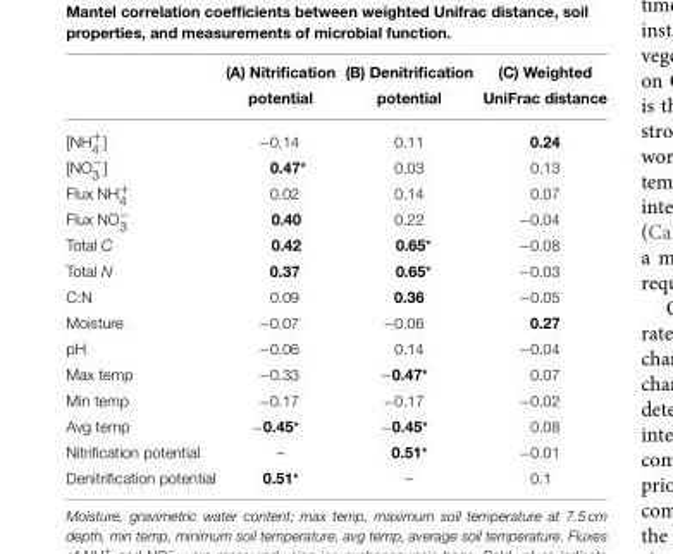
<table><thead><tr><td></td><td>(A) Nitrification potential</td><td>(B) Denitrification potential</td><td>(C) Weighted UniFrac distance</td></tr></thead><tbody><tr><td>[NH<sup>+</sup> <sub>4</sub> ]</td><td>−0.14</td><td>0.11</td><td>0.24</td></tr><tr><td>[NO<sup>−</sup> <sub>3</sub> ]</td><td>0.47*</td><td>0.03</td><td>0.13</td></tr><tr><td>Flux NH<sup>+</sup> <sub>4</sub></td><td>0.02</td><td>0.14</td><td>0.07</td></tr><tr><td>Flux NO<sup>−</sup> <sub>3</sub></td><td>0.40</td><td>0.22</td><td>−0.04</td></tr><tr><td>Total C</td><td>0.42</td><td>0.65*</td><td>−0.08</td></tr><tr><td>Total N</td><td>0.37</td><td>0.65*</td><td>−0.03</td></tr><tr><td>C:N</td><td>0.09</td><td>0.36</td><td>−0.05</td></tr><tr><td>Moisture</td><td>−0.07</td><td>−0.06</td><td>0.27</td></tr><tr><td>pH</td><td>−0.06</td><td>0.14</td><td>−0.04</td></tr><tr><td>Max temp</td><td>−0.33</td><td>−0.47*</td><td>0.07</td></tr><tr><td>Min temp</td><td>−0.17</td><td>−0.17</td><td>−0.02</td></tr><tr><td>Avg temp</td><td>−0.45*</td><td>−0.45*</td><td>0.08</td></tr><tr><td>Nitrification potential</td><td>–</td><td>0.51*</td><td>−0.01</td></tr><tr><td>Denitrification potential</td><td>0.51*</td><td>–</td><td>0.1</td></tr></tbody></table>